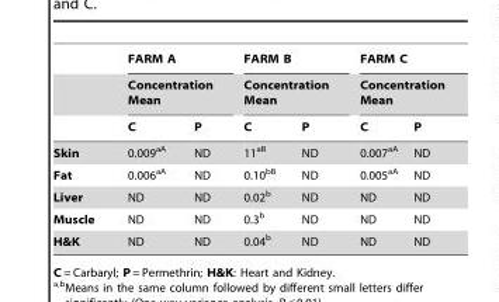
<table><thead><tr><td rowspan="3"></td><td rowspan="2" colspan="2">FARM A Concentration Mean</td><td rowspan="2" colspan="2">FARM B Concentration Mean</td><td rowspan="2" colspan="2">FARM C Concentration Mean</td></tr><tr></tr><tr><td>C</td><td>P</td><td>C</td><td>P</td><td>C</td><td>P</td></tr></thead><tbody><tr><td>Skin</td><td>0.009<sup>aA</sup></td><td>ND</td><td>11<sup>aB</sup></td><td>ND</td><td>0.007<sup>aA</sup></td><td>ND</td></tr><tr><td>Fat</td><td>0.006<sup>aA</sup></td><td>ND</td><td>0.10<sup>bB</sup></td><td>ND</td><td>0.005<sup>aA</sup></td><td>ND</td></tr><tr><td>Liver</td><td>ND</td><td>ND</td><td>0.02<sup>b</sup></td><td>ND</td><td>ND</td><td>ND</td></tr><tr><td>Muscle</td><td>ND</td><td>ND</td><td>0.3<sup>b</sup></td><td>ND</td><td>ND</td><td>ND</td></tr><tr><td>H&amp;K</td><td>ND</td><td>ND</td><td>0.04<sup>b</sup></td><td>ND</td><td>ND</td><td>ND</td></tr></tbody></table>